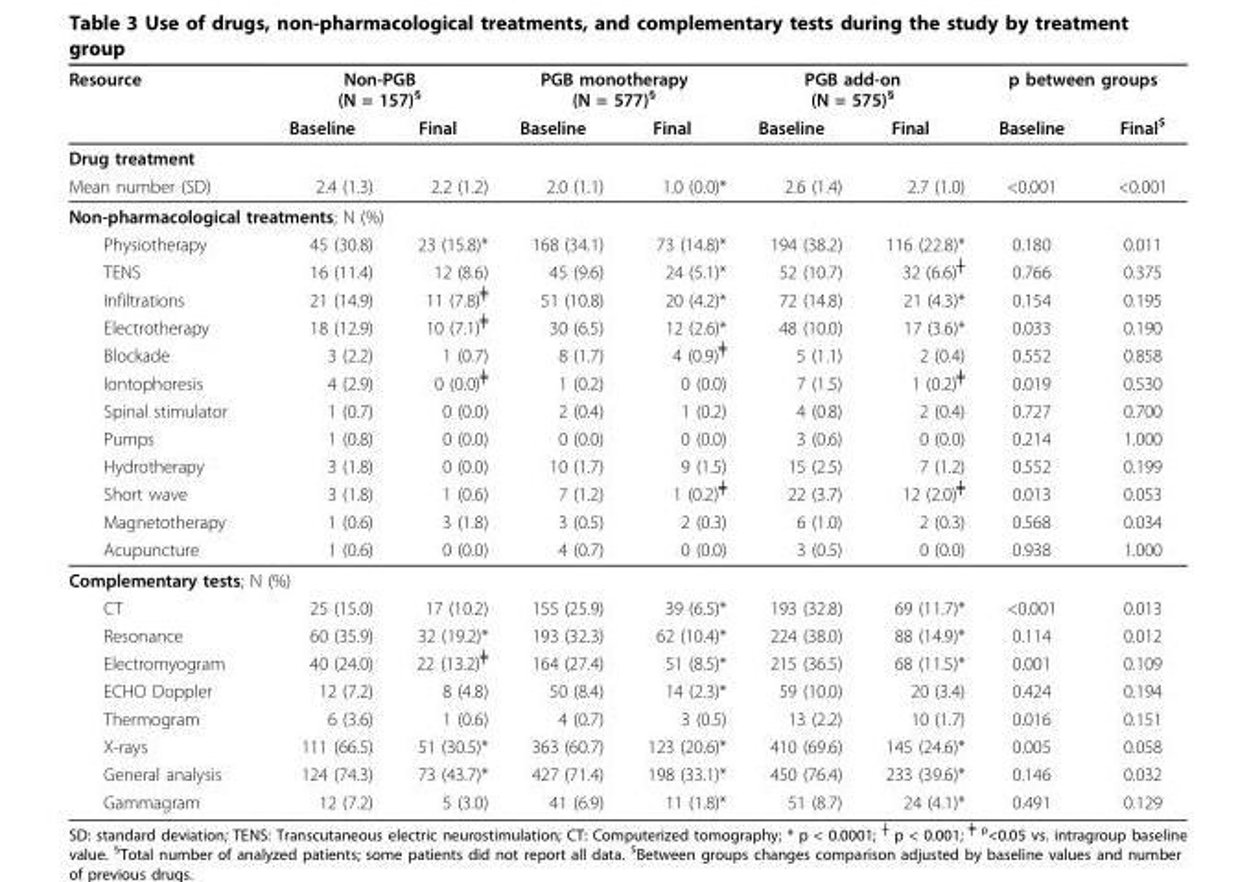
<table><thead><tr><td rowspan="2">Resource</td><td colspan="2">Non-PGB (N = 157)<sup>§</sup></td><td colspan="2">PGB monotherapy (N = 577)<sup>§</sup></td><td colspan="2">PGB add-on (N = 575)<sup>§</sup></td><td colspan="2">p between groups</td></tr><tr><td>Baseline</td><td>Final</td><td>Baseline</td><td>Final</td><td>Baseline</td><td>Final</td><td>Baseline</td><td>Final<sup>$</sup></td></tr></thead><tbody><tr><td colspan="9">Drug treatment</td></tr><tr><td>Mean number (SD)</td><td>2.4 (1.3)</td><td>2.2 (1.2)</td><td>2.0 (1.1)</td><td>1.0 (0.0)*</td><td>2.6 (1.4)</td><td>2.7 (1.0)</td><td>&lt;0.001</td><td>&lt;0.001</td></tr><tr><td colspan="9">Non-pharmacological treatments; N (%)</td></tr><tr><td>Physiotherapy</td><td>45 (30.8)</td><td>23 (15.8)*</td><td>168 (34.1)</td><td>73 (14.8)*</td><td>194 (38.2)</td><td>116 (22.8)*</td><td>0.180</td><td>0.011</td></tr><tr><td>TENS</td><td>16 (11.4)</td><td>12 (8.6)</td><td>45 (9.6)</td><td>24 (5.1)*</td><td>52 (10.7)</td><td>32 (6.6)<sup>┼</sup></td><td>0.766</td><td>0.375</td></tr><tr><td>Infiltrations</td><td>21 (14.9)</td><td>11 (7.8)<sup>╪</sup></td><td>51 (10.8)</td><td>20 (4.2)*</td><td>72 (14.8)</td><td>21 (4.3)*</td><td>0.154</td><td>0.195</td></tr><tr><td>Electrotherapy</td><td>18 (12.9)</td><td>10 (7.1)<sup>╪</sup></td><td>30 (6.5)</td><td>12 (2.6)*</td><td>48 (10.0)</td><td>17 (3.6)*</td><td>0.033</td><td>0.190</td></tr><tr><td>Blockade</td><td>3 (2.2)</td><td>1 (0.7)</td><td>8 (1.7)</td><td>4 (0.9)<sup>╪</sup></td><td>5 (1.1)</td><td>2 (0.4)</td><td>0.552</td><td>0.858</td></tr><tr><td>Iontophoresis</td><td>4 (2.9)</td><td>0 (0.0)<sup>╪</sup></td><td>1 (0.2)</td><td>0 (0.0)</td><td>7 (1.5)</td><td>1 (0.2)<sup>╪</sup></td><td>0.019</td><td>0.530</td></tr><tr><td>Spinal stimulator</td><td>1 (0.7)</td><td>0 (0.0)</td><td>2 (0.4)</td><td>1 (0.2)</td><td>4 (0.8)</td><td>2 (0.4)</td><td>0.727</td><td>0.700</td></tr><tr><td>Pumps</td><td>1 (0.8)</td><td>0 (0.0)</td><td>0 (0.0)</td><td>0 (0.0)</td><td>3 (0.6)</td><td>0 (0.0)</td><td>0.214</td><td>1.000</td></tr><tr><td>Hydrotherapy</td><td>3 (1.8)</td><td>0 (0.0)</td><td>10 (1.7)</td><td>9 (1.5)</td><td>15 (2.5)</td><td>7 (1.2)</td><td>0.552</td><td>0.199</td></tr><tr><td>Short wave</td><td>3 (1.8)</td><td>1 (0.6)</td><td>7 (1.2)</td><td>1 (0.2)<sup>╪</sup></td><td>22 (3.7)</td><td>12 (2.0)<sup>╪</sup></td><td>0.013</td><td>0.053</td></tr><tr><td>Magnetotherapy</td><td>1 (0.6)</td><td>3 (1.8)</td><td>3 (0.5)</td><td>2 (0.3)</td><td>6 (1.0)</td><td>2 (0.3)</td><td>0.568</td><td>0.034</td></tr><tr><td>Acupuncture</td><td>1 (0.6)</td><td>0 (0.0)</td><td>4 (0.7)</td><td>0 (0.0)</td><td>3 (0.5)</td><td>0 (0.0)</td><td>0.938</td><td>1.000</td></tr><tr><td colspan="9">Complementary tests; N (%)</td></tr><tr><td>CT</td><td>25 (15.0)</td><td>17 (10.2)</td><td>155 (25.9)</td><td>39 (6.5)*</td><td>193 (32.8)</td><td>69 (11.7)*</td><td>&lt;0.001</td><td>0.013</td></tr><tr><td>Resonance</td><td>60 (35.9)</td><td>32 (19.2)*</td><td>193 (32.3)</td><td>62 (10.4)*</td><td>224 (38.0)</td><td>88 (14.9)*</td><td>0.114</td><td>0.012</td></tr><tr><td>Electromyogram</td><td>40 (24.0)</td><td>22 (13.2)<sup>╪</sup></td><td>164 (27.4)</td><td>51 (8.5)*</td><td>215 (36.5)</td><td>68 (11.5)*</td><td>0.001</td><td>0.109</td></tr><tr><td>ECHO Doppler</td><td>12 (7.2)</td><td>8 (4.8)</td><td>50 (8.4)</td><td>14 (2.3)*</td><td>59 (10.0)</td><td>20 (3.4)</td><td>0.424</td><td>0.194</td></tr><tr><td>Thermogram</td><td>6 (3.6)</td><td>1 (0.6)</td><td>4 (0.7)</td><td>3 (0.5)</td><td>13 (2.2)</td><td>10 (1.7)</td><td>0.016</td><td>0.151</td></tr><tr><td>X-rays</td><td>111 (66.5)</td><td>51 (30.5)*</td><td>363 (60.7)</td><td>123 (20.6)*</td><td>410 (69.6)</td><td>145 (24.6)*</td><td>0.005</td><td>0.058</td></tr><tr><td>General analysis</td><td>124 (74.3)</td><td>73 (43.7)*</td><td>427 (71.4)</td><td>198 (33.1)*</td><td>450 (76.4)</td><td>233 (39.6)*</td><td>0.146</td><td>0.032</td></tr><tr><td>Gammagram</td><td>12 (7.2)</td><td>5 (3.0)</td><td>41 (6.9)</td><td>11 (1.8)*</td><td>51 (8.7)</td><td>24 (4.1)*</td><td>0.491</td><td>0.129</td></tr></tbody></table>